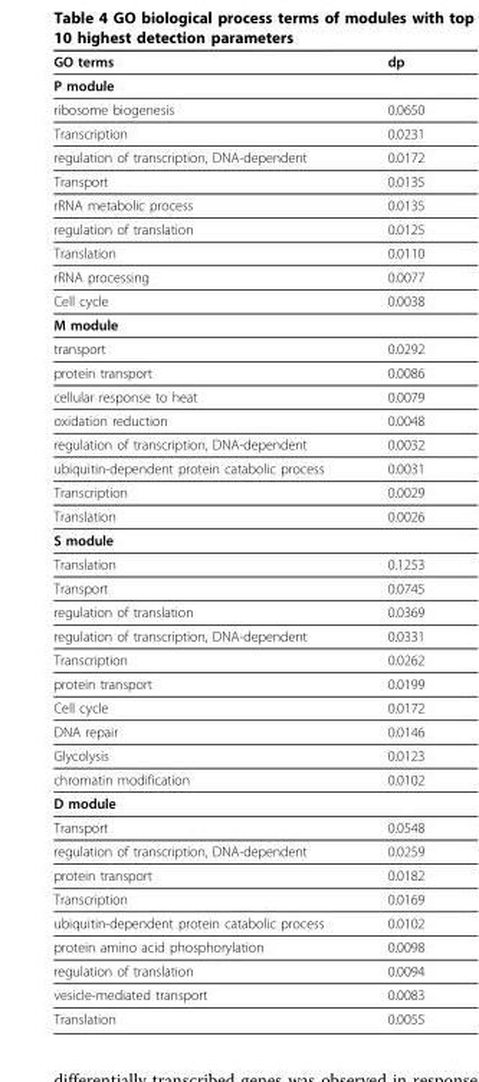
<table><thead><tr><td>GO terms</td><td>dp</td></tr></thead><tbody><tr><td colspan="2">P module</td></tr><tr><td>ribosome biogenesis</td><td>0.0650</td></tr><tr><td>Transcription</td><td>0.0231</td></tr><tr><td>regulation of transcription, DNA-dependent</td><td>0.0172</td></tr><tr><td>Transport</td><td>0.0135</td></tr><tr><td>rRNA metabolic process</td><td>0.0135</td></tr><tr><td>regulation of translation</td><td>0.0125</td></tr><tr><td>Translation</td><td>0.0110</td></tr><tr><td>rRNA processing</td><td>0.0077</td></tr><tr><td>Cell cycle</td><td>0.0038</td></tr><tr><td colspan="2">M module</td></tr><tr><td>transport</td><td>0.0292</td></tr><tr><td>protein transport</td><td>0.0086</td></tr><tr><td>cellular response to heat</td><td>0.0079</td></tr><tr><td>oxidation reduction</td><td>0.0048</td></tr><tr><td>regulation of transcription, DNA-dependent</td><td>0.0032</td></tr><tr><td>ubiquitin-dependent protein catabolic process</td><td>0.0031</td></tr><tr><td>Transcription</td><td>0.0029</td></tr><tr><td>Translation</td><td>0.0026</td></tr><tr><td colspan="2">S module</td></tr><tr><td>Translation</td><td>0.1253</td></tr><tr><td>Transport</td><td>0.0745</td></tr><tr><td>regulation of translation</td><td>0.0369</td></tr><tr><td>regulation of transcription, DNA-dependent</td><td>0.0331</td></tr><tr><td>Transcription</td><td>0.0262</td></tr><tr><td>protein transport</td><td>0.0199</td></tr><tr><td>Cell cycle</td><td>0.0172</td></tr><tr><td>DNA repair</td><td>0.0146</td></tr><tr><td>Glycolysis</td><td>0.0123</td></tr><tr><td>chromatin modification</td><td>0.0102</td></tr><tr><td colspan="2">D module</td></tr><tr><td>Transport</td><td>0.0548</td></tr><tr><td>regulation of transcription, DNA-dependent</td><td>0.0259</td></tr><tr><td>protein transport</td><td>0.0182</td></tr><tr><td>Transcription</td><td>0.0169</td></tr><tr><td>ubiquitin-dependent protein catabolic process</td><td>0.0102</td></tr><tr><td>protein amino acid phosphorylation</td><td>0.0098</td></tr><tr><td>regulation of translation</td><td>0.0094</td></tr><tr><td>vesicle-mediated transport</td><td>0.0083</td></tr><tr><td>Translation</td><td>0.0055</td></tr></tbody></table>